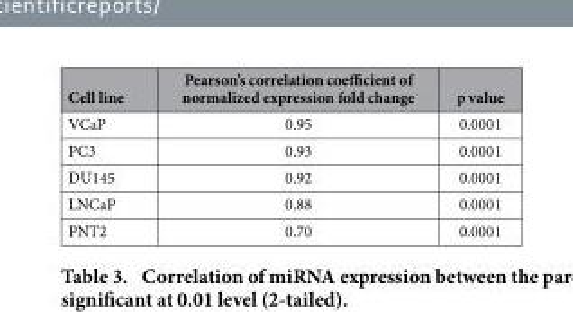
<table><thead><tr><td>Cell line</td><td>Pearson’s correlation coefficient of normalized expression fold change</td><td>p value</td></tr></thead><tbody><tr><td>VCaP</td><td>0.95</td><td>0.0001</td></tr><tr><td>PC3</td><td>0.93</td><td>0.0001</td></tr><tr><td>DU145</td><td>0.92</td><td>0.0001</td></tr><tr><td>LNCaP</td><td>0.88</td><td>0.0001</td></tr><tr><td>PNT2</td><td>0.70</td><td>0.0001</td></tr></tbody></table>